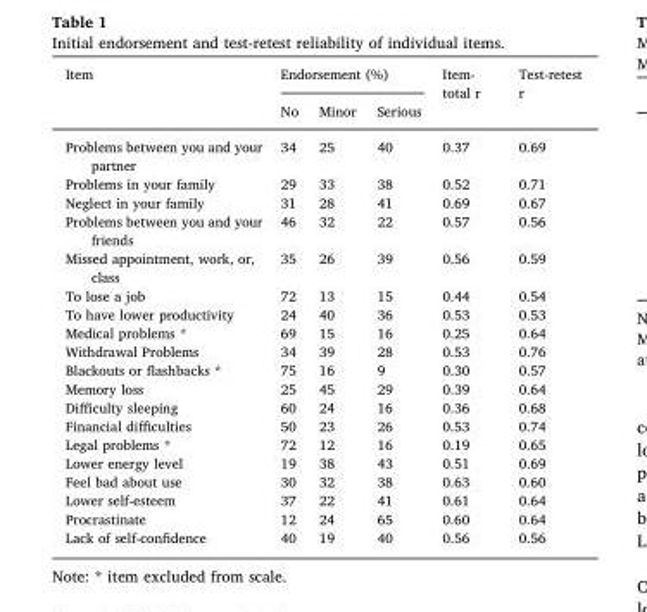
<table><thead><tr><td rowspan="2">Item</td><td colspan="3">Endorsement (%)</td><td rowspan="2">Item- total r</td><td rowspan="2">Test-retest r</td></tr><tr><td>No</td><td>Minor</td><td>Serious</td></tr></thead><tbody><tr><td>Problems between you and your partner</td><td>34</td><td>25</td><td>40</td><td>0.37</td><td>0.69</td></tr><tr><td>Problems in your family</td><td>29</td><td>33</td><td>38</td><td>0.52</td><td>0.71</td></tr><tr><td>Neglect in your family</td><td>31</td><td>28</td><td>41</td><td>0.69</td><td>0.67</td></tr><tr><td>Problems between you and your friends</td><td>46</td><td>32</td><td>22</td><td>0.57</td><td>0.56</td></tr><tr><td>Missed appointment, work, or, class</td><td>35</td><td>26</td><td>39</td><td>0.56</td><td>0.59</td></tr><tr><td>To lose a job</td><td>72</td><td>13</td><td>15</td><td>0.44</td><td>0.54</td></tr><tr><td>To have lower productivity</td><td>24</td><td>40</td><td>36</td><td>0.53</td><td>0.53</td></tr><tr><td>Medical problems *</td><td>69</td><td>15</td><td>16</td><td>0.25</td><td>0.64</td></tr><tr><td>Withdrawal Problems</td><td>34</td><td>39</td><td>28</td><td>0.53</td><td>0.76</td></tr><tr><td>Blackouts or flashbacks *</td><td>75</td><td>16</td><td>9</td><td>0.30</td><td>0.57</td></tr><tr><td>Memory loss</td><td>25</td><td>45</td><td>29</td><td>0.39</td><td>0.64</td></tr><tr><td>Difficulty sleeping</td><td>60</td><td>24</td><td>16</td><td>0.36</td><td>0.68</td></tr><tr><td>Financial difficulties</td><td>50</td><td>23</td><td>26</td><td>0.53</td><td>0.74</td></tr><tr><td>Legal problems *</td><td>72</td><td>12</td><td>16</td><td>0.19</td><td>0.65</td></tr><tr><td>Lower energy level</td><td>19</td><td>38</td><td>43</td><td>0.51</td><td>0.69</td></tr><tr><td>Feel bad about use</td><td>30</td><td>32</td><td>38</td><td>0.63</td><td>0.60</td></tr><tr><td>Lower self-esteem</td><td>37</td><td>22</td><td>41</td><td>0.61</td><td>0.64</td></tr><tr><td>Procrastinate</td><td>12</td><td>24</td><td>65</td><td>0.60</td><td>0.64</td></tr><tr><td>Lack of self-confidence</td><td>40</td><td>19</td><td>40</td><td>0.56</td><td>0.56</td></tr></tbody></table>